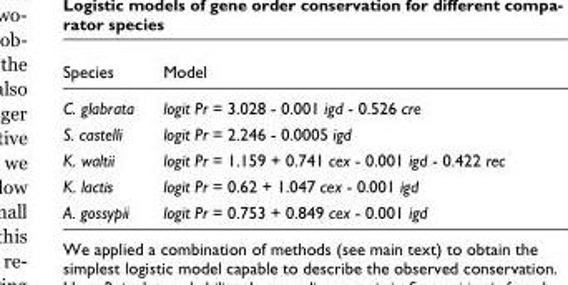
<table><thead><tr><td>Species</td><td>Model</td></tr></thead><tbody><tr><td>C. glabrata</td><td>logit Pr = 3.028 - 0.001 igd - 0.526 cre</td></tr><tr><td>S. castelli</td><td>logit Pr = 2.246 - 0.0005 igd</td></tr><tr><td>K. waltii</td><td>logit Pr = 1.159 + 0.741 cex - 0.001 igd - 0.422 rec</td></tr><tr><td>K. lactis</td><td>logit Pr = 0.62 + 1.047 cex - 0.001 igd</td></tr><tr><td>A. gossypii</td><td>logit Pr = 0.753 + 0.849 cex - 0.001 igd</td></tr></tbody></table>